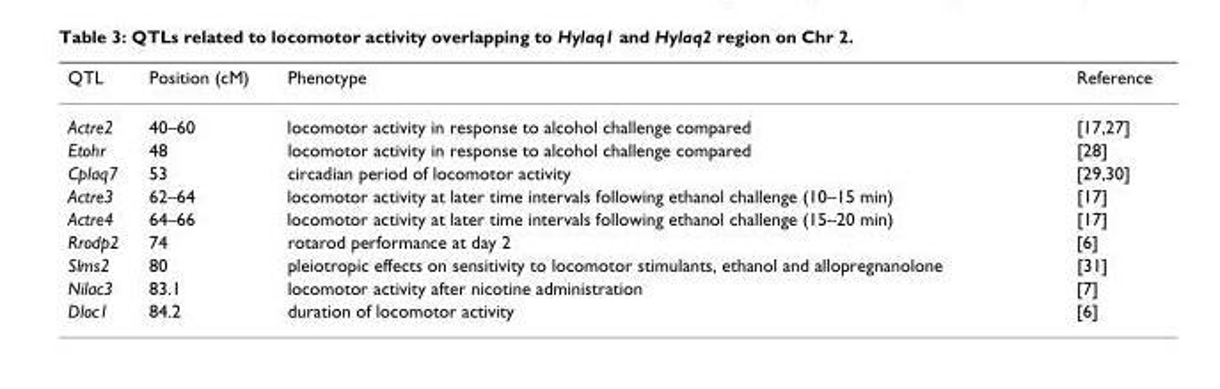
<table><thead><tr><td>QTL</td><td>Position (cM)</td><td>Phenotype</td><td>Reference</td></tr></thead><tbody><tr><td>Actre2</td><td>40–60</td><td>locomotor activity in response to alcohol challenge compared</td><td>[17,27]</td></tr><tr><td>Etohr</td><td>48</td><td>locomotor activity in response to alcohol challenge compared</td><td>[28]</td></tr><tr><td>Cplaq7</td><td>53</td><td>circadian period of locomotor activity</td><td>[29,30]</td></tr><tr><td>Actre3</td><td>62–64</td><td>locomotor activity at later time intervals following ethanol challenge (10–15 min)</td><td>[17]</td></tr><tr><td>Actre4</td><td>64–66</td><td>locomotor activity at later time intervals following ethanol challenge (15–20 min)</td><td>[17]</td></tr><tr><td>Rrodp2</td><td>74</td><td>rotarod performance at day 2</td><td>[6]</td></tr><tr><td>Slms2</td><td>80</td><td>pleiotropic effects on sensitivity to locomotor stimulants, ethanol and allopregnanolone</td><td>[31]</td></tr><tr><td>Nilac3</td><td>83.1</td><td>locomotor activity after nicotine administration</td><td>[7]</td></tr><tr><td>Dloc1</td><td>84.2</td><td>duration of locomotor activity</td><td>[6]</td></tr></tbody></table>